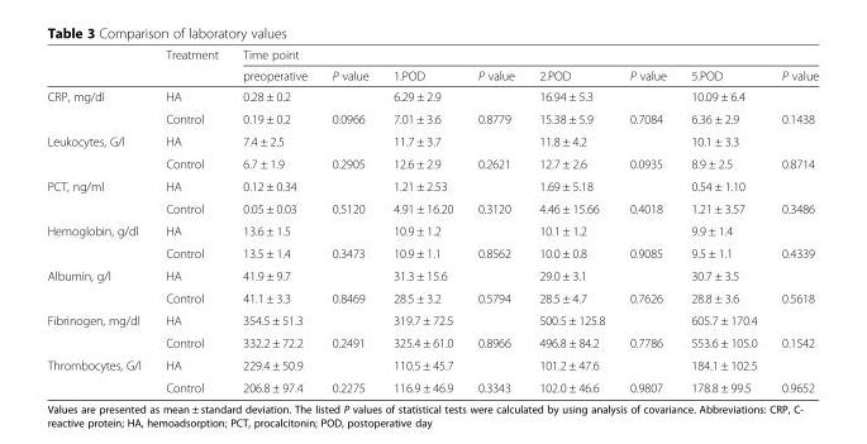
<table><thead><tr><td rowspan="2"></td><td rowspan="2">Treatment</td><td colspan="8">Time point</td></tr><tr><td>preoperative</td><td>P value</td><td>1.POD</td><td>P value</td><td>2.POD</td><td>P value</td><td>5.POD</td><td>P value</td></tr></thead><tbody><tr><td rowspan="2">CRP, mg/dl</td><td>HA</td><td>0.28 ± 0.2</td><td></td><td>6.29 ± 2.9</td><td></td><td>16.94 ± 5.3</td><td></td><td>10.09 ± 6.4</td><td></td></tr><tr><td>Control</td><td>0.19 ± 0.2</td><td>0.0966</td><td>7.01 ± 3.6</td><td>0.8779</td><td>15.38 ± 5.9</td><td>0.7084</td><td>6.36 ± 2.9</td><td>0.1438</td></tr><tr><td rowspan="2">Leukocytes, G/l</td><td>HA</td><td>7.4 ± 2.5</td><td></td><td>11.7 ± 3.7</td><td></td><td>11.8 ± 4.2</td><td></td><td>10.1 ± 3.3</td><td></td></tr><tr><td>Control</td><td>6.7 ± 1.9</td><td>0.2905</td><td>12.6 ± 2.9</td><td>0.2621</td><td>12.7 ± 2.6</td><td>0.0935</td><td>8.9 ± 2.5</td><td>0.8714</td></tr><tr><td rowspan="2">PCT, ng/ml</td><td>HA</td><td>0.12 ± 0.34</td><td></td><td>1.21 ± 2.53</td><td></td><td>1.69 ± 5.18</td><td></td><td>0.54 ± 1.10</td><td></td></tr><tr><td>Control</td><td>0.05 ± 0.03</td><td>0.5120</td><td>4.91 ± 16.20</td><td>0.3120</td><td>4.46 ± 15.66</td><td>0.4018</td><td>1.21 ± 3.57</td><td>0.3486</td></tr><tr><td rowspan="2">Hemoglobin, g/dl</td><td>HA</td><td>13.6 ± 1.5</td><td></td><td>10.9 ± 1.2</td><td></td><td>10.1 ± 1.2</td><td></td><td>9.9 ± 1.4</td><td></td></tr><tr><td>Control</td><td>13.5 ± 1.4</td><td>0.3473</td><td>10.9 ± 1.1</td><td>0.8562</td><td>10.0 ± 0.8</td><td>0.9085</td><td>9.5 ± 1.1</td><td>0.4339</td></tr><tr><td rowspan="2">Albumin, g/l</td><td>HA</td><td>41.9 ± 9.7</td><td></td><td>31.3 ± 15.6</td><td></td><td>29.0 ± 3.1</td><td></td><td>30.7 ± 3.5</td><td></td></tr><tr><td>Control</td><td>41.1 ± 3.3</td><td>0.8469</td><td>28.5 ± 3.2</td><td>0.5794</td><td>28.5 ± 4.7</td><td>0.7626</td><td>28.8 ± 3.6</td><td>0.5618</td></tr><tr><td rowspan="2">Fibrinogen, mg/dl</td><td>HA</td><td>354.5 ± 51.3</td><td></td><td>319.7 ± 72.5</td><td></td><td>500.5 ± 125.8</td><td></td><td>605.7 ± 170.4</td><td></td></tr><tr><td>Control</td><td>332.2 ± 72.2</td><td>0.2491</td><td>325.4 ± 61.0</td><td>0.8966</td><td>496.8 ± 84.2</td><td>0.7786</td><td>553.6 ± 105.0</td><td>0.1542</td></tr><tr><td rowspan="2">Thrombocytes, G/l</td><td>HA</td><td>229.4 ± 50.9</td><td></td><td>110.5 ± 45.7</td><td></td><td>101.2 ± 47.6</td><td></td><td>184.1 ± 102.5</td><td></td></tr><tr><td>Control</td><td>206.8 ± 97.4</td><td>0.2275</td><td>116.9 ± 46.9</td><td>0.3343</td><td>102.0 ± 46.6</td><td>0.9807</td><td>178.8 ± 99.5</td><td>0.9652</td></tr></tbody></table>